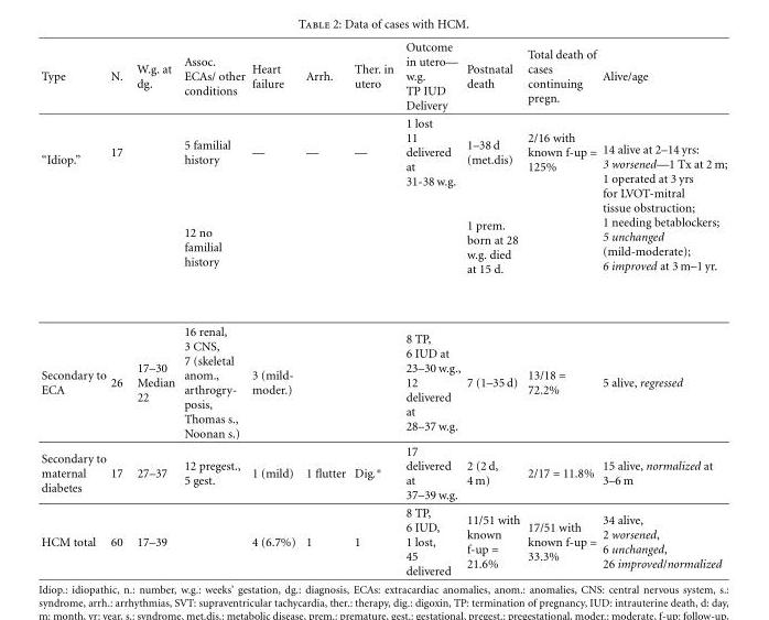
<table><thead><tr><td>Type</td><td>N.</td><td>W.g. at dg.</td><td>Assoc. ECAs/ other conditions</td><td>Heart failure</td><td>Arrh.</td><td>Ther. in utero</td><td>Outcome in utero— w.g. TP IUD Delivery</td><td>Postnatal death</td><td>Total death of cases continuing pregn.</td><td>Alive/age</td></tr></thead><tbody><tr><td rowspan="2">“Idiop.”</td><td>17</td><td></td><td>5 familial history</td><td>—</td><td>—</td><td>—</td><td>1 lost 11 delivered at 31-38 w.g.</td><td>1–38 d (met.dis)</td><td>2/16 with known f-up = 125%</td><td rowspan="2">14 alive at 2–14 yrs: 3 worsened—1 Tx at 2 m; 1 operated at 3 yrs for LVOT-mitral tissue obstruction; 1 needing betablockers; 5 unchanged (mild-moderate); 6 improved at 3 m–1 yr.</td></tr><tr><td></td><td></td><td>12 no familial history</td><td></td><td></td><td></td><td></td><td>1 prem. born at 28 w.g. died at 15 d.</td><td></td></tr><tr><td>Secondary to ECA</td><td>26</td><td>17–30 Median 22</td><td>16 renal, 3 CNS, 7 (skeletal anom., arthrogry- posis, Thomas s., Noonan s.)</td><td>3 (mild- moder.)</td><td></td><td></td><td>8 TP, 6 IUD at 23–30 w.g., 12 delivered at 28–37 w.g.</td><td>7 (1–35 d)</td><td>13/18 = 72.2%</td><td>5 alive, regressed</td></tr><tr><td>Secondary to maternal diabetes</td><td>17</td><td>27–37</td><td>12 pregest., 5 gest.</td><td>1 (mild)</td><td>1 flutter</td><td>Dig.∗</td><td>17 delivered at 37–39 w.g.</td><td>2 (2 d, 4 m)</td><td>2/17 = 11.8%</td><td>15 alive, normalized at 3–6 m</td></tr><tr><td>HCM total</td><td>60</td><td>17–39</td><td></td><td>4 (6.7%)</td><td>1</td><td>1</td><td>8 TP, 6 IUD, 1 lost, 45 delivered</td><td>11/51 with known f-up = 21.6%</td><td>17/51 with known f-up = 33.3%</td><td>34 alive, 2 worsened, 6 unchanged, 26 improved/normalized</td></tr></tbody></table>